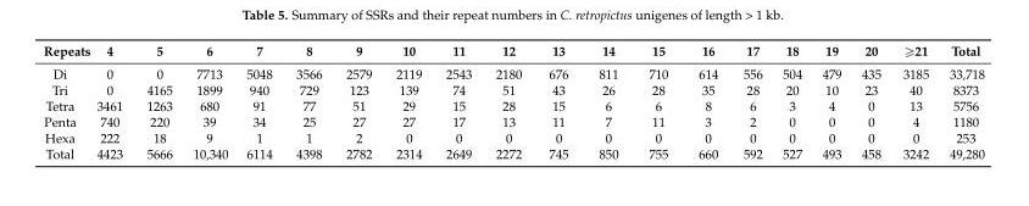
<table><thead><tr><td>Repeats</td><td>4</td><td>5</td><td>6</td><td>7</td><td>8</td><td>9</td><td>10</td><td>11</td><td>12</td><td>13</td><td>14</td><td>15</td><td>16</td><td>17</td><td>18</td><td>19</td><td>20</td><td>≥21</td><td>Total</td></tr></thead><tbody><tr><td>Di</td><td>0</td><td>0</td><td>7713</td><td>5048</td><td>3566</td><td>2579</td><td>2119</td><td>2543</td><td>2180</td><td>676</td><td>811</td><td>710</td><td>614</td><td>556</td><td>504</td><td>479</td><td>435</td><td>3185</td><td>33,718</td></tr><tr><td>Tri</td><td>0</td><td>4165</td><td>1899</td><td>940</td><td>729</td><td>123</td><td>139</td><td>74</td><td>51</td><td>43</td><td>26</td><td>28</td><td>35</td><td>28</td><td>20</td><td>10</td><td>23</td><td>40</td><td>8373</td></tr><tr><td>Tetra</td><td>3461</td><td>1263</td><td>680</td><td>91</td><td>77</td><td>51</td><td>29</td><td>15</td><td>28</td><td>15</td><td>6</td><td>6</td><td>8</td><td>6</td><td>3</td><td>4</td><td>0</td><td>13</td><td>5756</td></tr><tr><td>Penta</td><td>740</td><td>220</td><td>39</td><td>34</td><td>25</td><td>27</td><td>27</td><td>17</td><td>13</td><td>11</td><td>7</td><td>11</td><td>3</td><td>2</td><td>0</td><td>0</td><td>0</td><td>4</td><td>1180</td></tr><tr><td>Hexa</td><td>222</td><td>18</td><td>9</td><td>1</td><td>1</td><td>2</td><td>0</td><td>0</td><td>0</td><td>0</td><td>0</td><td>0</td><td>0</td><td>0</td><td>0</td><td>0</td><td>0</td><td>0</td><td>253</td></tr><tr><td>Total</td><td>4423</td><td>5666</td><td>10,340</td><td>6114</td><td>4398</td><td>2782</td><td>2314</td><td>2649</td><td>2272</td><td>745</td><td>850</td><td>755</td><td>660</td><td>592</td><td>527</td><td>493</td><td>458</td><td>3242</td><td>49,280</td></tr></tbody></table>